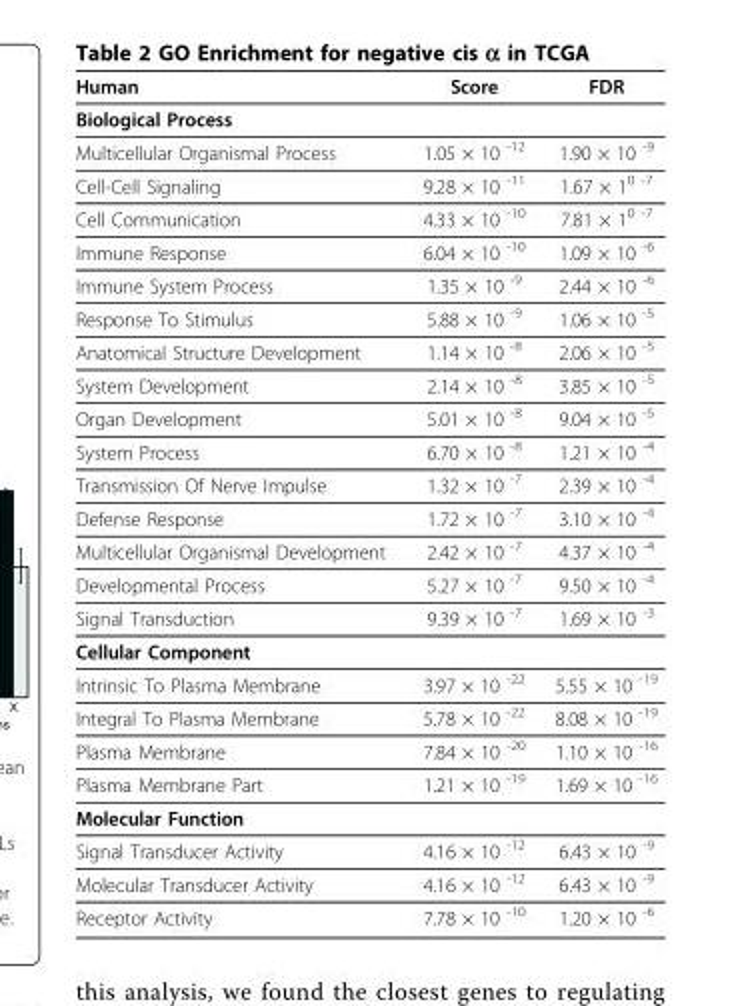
<table><thead><tr><td>Human</td><td>Score</td><td>FDR</td></tr></thead><tbody><tr><td colspan="3">Biological Process</td></tr><tr><td>Multicellular Organismal Process</td><td>1.05 × 10 -12</td><td>1.90 × 10 -9</td></tr><tr><td>Cell-Cell Signaling</td><td>9.28 × 10 -11</td><td>1.67 × 10 -7</td></tr><tr><td>Cell Communication</td><td>4.33 × 10 -10</td><td>7.81 × 10 -7</td></tr><tr><td>Immune Response</td><td>6.04 × 10 -10</td><td>1.09 × 10 -6</td></tr><tr><td>Immune System Process</td><td>1.35 × 10 -9</td><td>2.44 × 10 -6</td></tr><tr><td>Response To Stimulus</td><td>5.88 × 10 -9</td><td>1.06 × 10 -5</td></tr><tr><td>Anatomical Structure Development</td><td>1.14 × 10 -8</td><td>2.06 × 10 -5</td></tr><tr><td>System Development</td><td>2.14 × 10 -8</td><td>3.85 × 10 -5</td></tr><tr><td>Organ Development</td><td>5.01 × 10 -8</td><td>9.04 × 10 -5</td></tr><tr><td>System Process</td><td>6.70 × 10 -8</td><td>1.21 × 10 -4</td></tr><tr><td>Transmission Of Nerve Impulse</td><td>1.32 × 10 -7</td><td>2.39 × 10 -4</td></tr><tr><td>Defense Response</td><td>1.72 × 10 -7</td><td>3.10 × 10 -4</td></tr><tr><td>Multicellular Organismal Development</td><td>2.42 × 10 -7</td><td>4.37 × 10 -4</td></tr><tr><td>Developmental Process</td><td>5.27 × 10 -7</td><td>9.50 × 10 -4</td></tr><tr><td>Signal Transduction</td><td>9.39 × 10 -7</td><td>1.69 × 10 -3</td></tr><tr><td colspan="3">Cellular Component</td></tr><tr><td>Intrinsic To Plasma Membrane</td><td>3.97 × 10 -22</td><td>5.55 × 10 -19</td></tr><tr><td>Integral To Plasma Membrane</td><td>5.78 × 10 -22</td><td>8.08 × 10 -19</td></tr><tr><td>Plasma Membrane</td><td>7.84 × 10 -20</td><td>1.10 × 10 -16</td></tr><tr><td>Plasma Membrane Part</td><td>1.21 × 10 -19</td><td>1.69 × 10 -16</td></tr><tr><td colspan="3">Molecular Function</td></tr><tr><td>Signal Transducer Activity</td><td>4.16 × 10 -12</td><td>6.43 × 10 -9</td></tr><tr><td>Molecular Transducer Activity</td><td>4.16 × 10 -12</td><td>6.43 × 10 -9</td></tr><tr><td>Receptor Activity</td><td>7.78 × 10 -10</td><td>1.20 × 10 -6</td></tr></tbody></table>